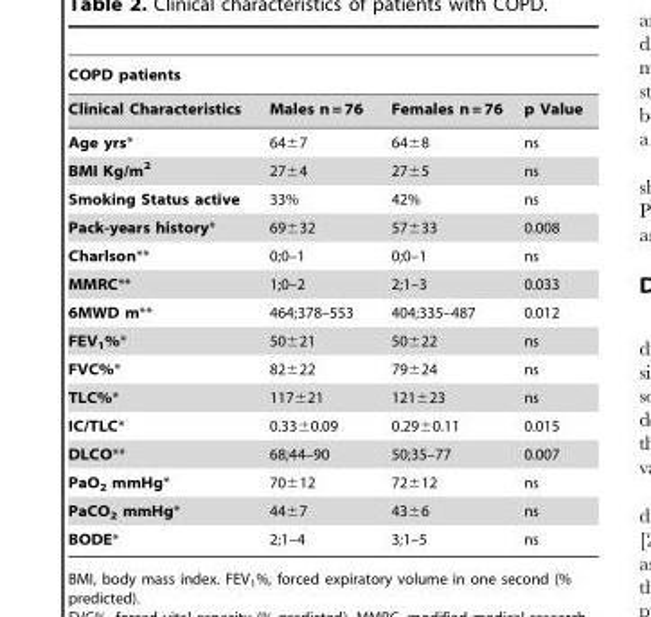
<table><thead><tr><td colspan="4">COPD patients</td></tr><tr><td>Clinical Characteristics</td><td>Males n = 76</td><td>Females n = 76</td><td>p Value</td></tr></thead><tbody><tr><td>Age yrs*</td><td>64±7</td><td>64±8</td><td>ns</td></tr><tr><td>BMI Kg/m<sup>2</sup></td><td>27±4</td><td>27±5</td><td>ns</td></tr><tr><td>Smoking Status active</td><td>33%</td><td>42%</td><td>ns</td></tr><tr><td>Pack-years history*</td><td>69±32</td><td>57±33</td><td>0.008</td></tr><tr><td>Charlson**</td><td>0;0–1</td><td>0;0–1</td><td>ns</td></tr><tr><td>MMRC**</td><td>1;0–2</td><td>2;1–3</td><td>0.033</td></tr><tr><td>6MWD m**</td><td>464;378–553</td><td>404;335–487</td><td>0.012</td></tr><tr><td>FEV<sub>1</sub>%*</td><td>50±21</td><td>50±22</td><td>ns</td></tr><tr><td>FVC%*</td><td>82±22</td><td>79±24</td><td>ns</td></tr><tr><td>TLC%*</td><td>117±21</td><td>121±23</td><td>ns</td></tr><tr><td>IC/TLC*</td><td>0.33±0.09</td><td>0.29±0.11</td><td>0.015</td></tr><tr><td>DLCO**</td><td>68;44–90</td><td>50;35–77</td><td>0.007</td></tr><tr><td>PaO<sub>2</sub> mmHg*</td><td>70±12</td><td>72±12</td><td>ns</td></tr><tr><td>PaCO<sub>2</sub> mmHg*</td><td>44±7</td><td>43±6</td><td>ns</td></tr><tr><td>BODE*</td><td>2;1–4</td><td>3;1–5</td><td>ns</td></tr></tbody></table>